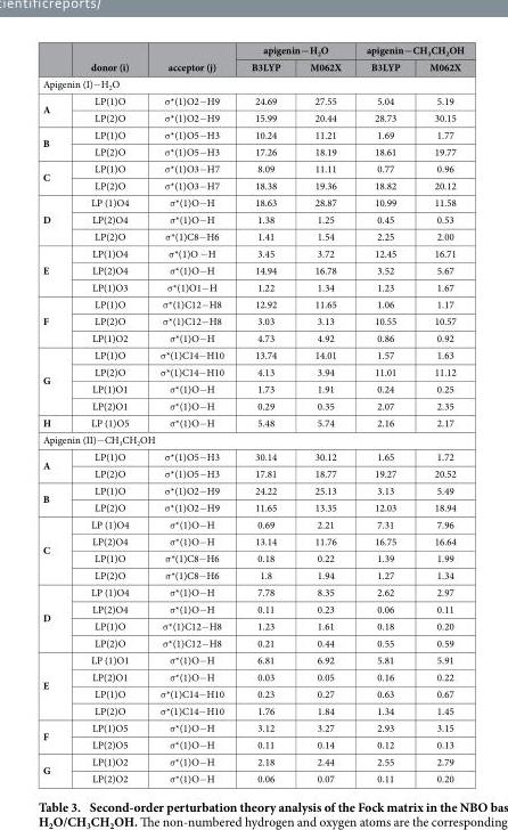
<table><thead><tr><td rowspan="2"></td><td rowspan="2">donor (i)</td><td rowspan="2">acceptor (j)</td><td colspan="2">apigenin−H<sub>2</sub>O</td><td colspan="2">apigenin−CH<sub>3</sub>CH<sub>2</sub>OH</td></tr><tr><td>B3LYP</td><td>M062X</td><td>B3LYP</td><td>M062X</td></tr></thead><tbody><tr><td colspan="7">Apigenin (I)− H<sub>2</sub>O</td></tr><tr><td rowspan="2">A</td><td>LP(1)O</td><td>σ *(1)O2− H9</td><td>24.69</td><td>27.55</td><td>5.04</td><td>5.19</td></tr><tr><td>LP(2)O</td><td>σ *(1)O2− H9</td><td>15.99</td><td>20.44</td><td>28.73</td><td>30.15</td></tr><tr><td rowspan="2">B</td><td>LP(1)O</td><td>σ *(1)O5− H3</td><td>10.24</td><td>11.21</td><td>1.69</td><td>1.77</td></tr><tr><td>LP(2)O</td><td>σ *(1)O5− H3</td><td>17.26</td><td>18.19</td><td>18.61</td><td>19.77</td></tr><tr><td rowspan="2">C</td><td>LP(1)O</td><td>σ *(1)O3− H7</td><td>8.09</td><td>11.11</td><td>0.77</td><td>0.96</td></tr><tr><td>LP(2)O</td><td>σ *(1)O3− H7</td><td>18.38</td><td>19.36</td><td>18.82</td><td>20.12</td></tr><tr><td rowspan="3">D</td><td>LP (1)O4</td><td>σ *(1)O− H</td><td>18.63</td><td>28.87</td><td>10.99</td><td>11.58</td></tr><tr><td>LP(2)O4</td><td>σ *(1)O− H</td><td>1.38</td><td>1.25</td><td>0.45</td><td>0.53</td></tr><tr><td>LP(2)O</td><td>σ *(1)C8− H6</td><td>1.41</td><td>1.54</td><td>2.25</td><td>2.00</td></tr><tr><td rowspan="3">E</td><td>LP(1)O4</td><td>σ *(1)O − H</td><td>3.45</td><td>3.72</td><td>12.45</td><td>16.71</td></tr><tr><td>LP(2)O4</td><td>σ *(1)O− H</td><td>14.94</td><td>16.78</td><td>3.52</td><td>5.67</td></tr><tr><td>LP(1)O3</td><td>σ *(1)O1− H</td><td>1.22</td><td>1.34</td><td>1.23</td><td>1.67</td></tr><tr><td rowspan="3">F</td><td>LP(1)O</td><td>σ *(1)C12− H8</td><td>12.92</td><td>11.65</td><td>1.06</td><td>1.17</td></tr><tr><td>LP(2)O</td><td>σ *(1)C12− H8</td><td>3.03</td><td>3.13</td><td>10.55</td><td>10.57</td></tr><tr><td>LP(1)O2</td><td>σ *(1)O− H</td><td>4.73</td><td>4.92</td><td>0.86</td><td>0.92</td></tr><tr><td rowspan="4">G</td><td>LP(1)O</td><td>σ *(1)C14− H10</td><td>13.74</td><td>14.01</td><td>1.57</td><td>1.63</td></tr><tr><td>LP(2)O</td><td>σ *(1)C14− H10</td><td>4.13</td><td>3.94</td><td>11.01</td><td>11.12</td></tr><tr><td>LP(1)O1</td><td>σ *(1)O− H</td><td>1.73</td><td>1.91</td><td>0.24</td><td>0.25</td></tr><tr><td>LP(2)O1</td><td>σ *(1)O− H</td><td>0.29</td><td>0.35</td><td>2.07</td><td>2.35</td></tr><tr><td>H</td><td>LP (1)O5</td><td>σ *(1)O− H</td><td>5.48</td><td>5.74</td><td>2.16</td><td>2.17</td></tr><tr><td colspan="7">Apigenin (II)− CH<sub>3</sub>CH<sub>2</sub>OH</td></tr><tr><td rowspan="2">A</td><td>LP(1)O</td><td>σ *(1)O5− H3</td><td>30.14</td><td>30.12</td><td>1.65</td><td>1.72</td></tr><tr><td>LP(2)O</td><td>σ *(1)O5− H3</td><td>17.81</td><td>18.77</td><td>19.27</td><td>20.52</td></tr><tr><td rowspan="2">B</td><td>LP(1)O</td><td>σ *(1)O2− H9</td><td>24.22</td><td>25.13</td><td>3.13</td><td>5.49</td></tr><tr><td>LP(2)O</td><td>σ *(1)O2− H9</td><td>11.65</td><td>13.35</td><td>12.03</td><td>18.94</td></tr><tr><td rowspan="4">C</td><td>LP (1)O4</td><td>σ *(1)O− H</td><td>0.69</td><td>2.21</td><td>7.31</td><td>7.96</td></tr><tr><td>LP(2)O4</td><td>σ *(1)O− H</td><td>13.14</td><td>11.76</td><td>16.75</td><td>16.64</td></tr><tr><td>LP(1)O</td><td>σ *(1)C8− H6</td><td>0.18</td><td>0.22</td><td>1.39</td><td>1.99</td></tr><tr><td>LP(2)O</td><td>σ *(1)C8− H6</td><td>1.8</td><td>1.94</td><td>1.27</td><td>1.34</td></tr><tr><td rowspan="4">D</td><td>LP (1)O4</td><td>σ *(1)O− H</td><td>7.78</td><td>8.35</td><td>2.62</td><td>2.97</td></tr><tr><td>LP(2)O4</td><td>σ *(1)O− H</td><td>0.11</td><td>0.23</td><td>0.06</td><td>0.11</td></tr><tr><td>LP(1)O</td><td>σ *(1)C12− H8</td><td>1.23</td><td>1.61</td><td>0.18</td><td>0.20</td></tr><tr><td>LP(2)O</td><td>σ *(1)C12− H8</td><td>0.21</td><td>0.44</td><td>0.55</td><td>0.59</td></tr><tr><td rowspan="4">E</td><td>LP (1)O1</td><td>σ *(1)O− H</td><td>6.81</td><td>6.92</td><td>5.81</td><td>5.91</td></tr><tr><td>LP(2)O1</td><td>σ *(1)O− H</td><td>0.03</td><td>0.05</td><td>0.16</td><td>0.22</td></tr><tr><td>LP(1)O</td><td>σ *(1)C14− H10</td><td>0.23</td><td>0.27</td><td>0.63</td><td>0.67</td></tr><tr><td>LP(2)O</td><td>σ *(1)C14− H10</td><td>1.76</td><td>1.84</td><td>1.34</td><td>1.45</td></tr><tr><td rowspan="2">F</td><td>LP(1)O5</td><td>σ *(1)O− H</td><td>3.12</td><td>3.27</td><td>2.93</td><td>3.15</td></tr><tr><td>LP(2)O5</td><td>σ *(1)O− H</td><td>0.11</td><td>0.14</td><td>0.12</td><td>0.13</td></tr><tr><td rowspan="2">G</td><td>LP(1)O2</td><td>σ *(1)O− H</td><td>2.18</td><td>2.44</td><td>2.55</td><td>2.79</td></tr><tr><td>LP(2)O2</td><td>σ *(1)O− H</td><td>0.06</td><td>0.07</td><td>0.11</td><td>0.20</td></tr></tbody></table>